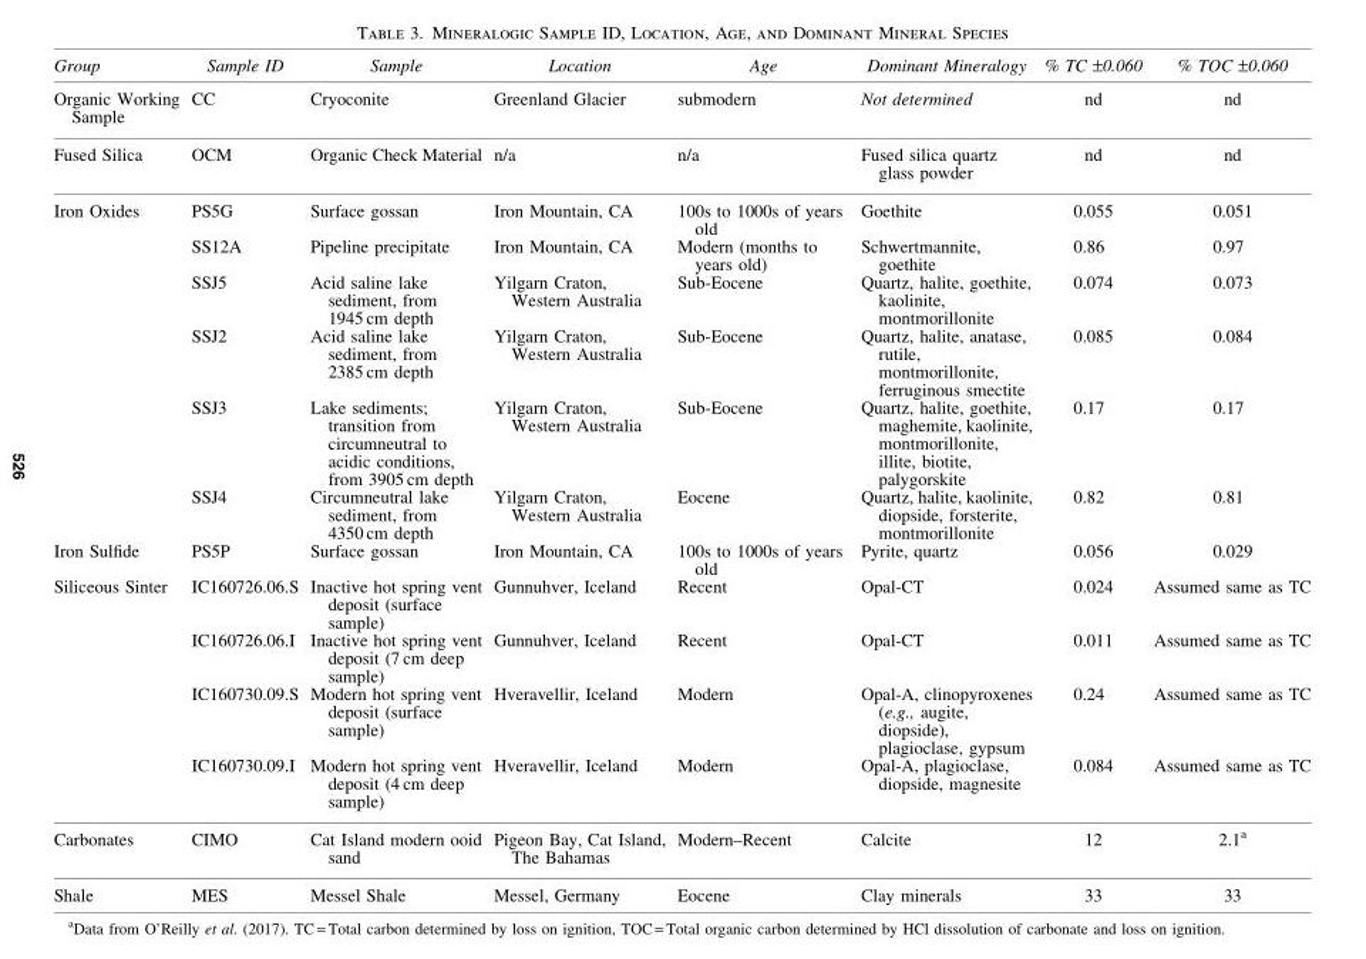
<table><thead><tr><td>Group</td><td>Sample ID</td><td>Sample</td><td>Location</td><td>Age</td><td>Dominant Mineralogy</td><td>% TC –0.060</td><td>% TOC –0.060</td></tr></thead><tbody><tr><td>Organic Working Sample</td><td>CC</td><td>Cryoconite</td><td>Greenland Glacier</td><td>submodern</td><td>Not determined</td><td>nd</td><td>nd</td></tr><tr><td>Fused Silica</td><td>OCM</td><td>Organic Check Material</td><td>n/a</td><td>n/a</td><td>Fused silica quartz glass powder</td><td>nd</td><td>nd</td></tr><tr><td rowspan="6">Iron Oxides</td><td>PS5G</td><td>Surface gossan</td><td>Iron Mountain, CA</td><td>100s to 1000s of years old</td><td>Goethite</td><td>0.055</td><td>0.051</td></tr><tr><td>SS12A</td><td>Pipeline precipitate</td><td>Iron Mountain, CA</td><td>Modern (months to years old)</td><td>Schwertmannite, goethite</td><td>0.86</td><td>0.97</td></tr><tr><td>SSJ5</td><td>Acid saline lake sediment, from 1945 cm depth</td><td>Yilgarn Craton, Western Australia</td><td>Sub-Eocene</td><td>Quartz, halite, goethite, kaolinite, montmorillonite</td><td>0.074</td><td>0.073</td></tr><tr><td>SSJ2</td><td>Acid saline lake sediment, from 2385 cm depth</td><td>Yilgarn Craton, Western Australia</td><td>Sub-Eocene</td><td>Quartz, halite, anatase, rutile, montmorillonite, ferruginous smectite</td><td>0.085</td><td>0.084</td></tr><tr><td>SSJ3</td><td>Lake sediments; transition from circumneutral to acidic conditions, from 3905 cm depth</td><td>Yilgarn Craton, Western Australia</td><td>Sub-Eocene</td><td>Quartz, halite, goethite, maghemite, kaolinite, montmorillonite, illite, biotite, palygorskite</td><td>0.17</td><td>0.17</td></tr><tr><td>SSJ4</td><td>Circumneutral lake sediment, from 4350 cm depth</td><td>Yilgarn Craton, Western Australia</td><td>Eocene</td><td>Quartz, halite, kaolinite, diopside, forsterite, montmorillonite</td><td>0.82</td><td>0.81</td></tr><tr><td>Iron Sulfide</td><td>PS5P</td><td>Surface gossan</td><td>Iron Mountain, CA</td><td>100s to 1000s of years old</td><td>Pyrite, quartz</td><td>0.056</td><td>0.029</td></tr><tr><td rowspan="4">Siliceous Sinter</td><td>IC160726.06.S</td><td>Inactive hot spring vent deposit (surface sample)</td><td>Gunnuhver, Iceland</td><td>Recent</td><td>Opal-CT</td><td>0.024</td><td>Assumed same as TC</td></tr><tr><td>IC160726.06.I</td><td>Inactive hot spring vent deposit (7 cm deep sample)</td><td>Gunnuhver, Iceland</td><td>Recent</td><td>Opal-CT</td><td>0.011</td><td>Assumed same as TC</td></tr><tr><td>IC160730.09.S</td><td>Modern hot spring vent deposit (surface sample)</td><td>Hveravellir, Iceland</td><td>Modern</td><td>Opal-A, clinopyroxenes (e.g., augite, diopside), plagioclase, gypsum</td><td>0.24</td><td>Assumed same as TC</td></tr><tr><td>IC160730.09.I</td><td>Modern hot spring vent deposit (4 cm deep sample)</td><td>Hveravellir, Iceland</td><td>Modern</td><td>Opal-A, plagioclase, diopside, magnesite</td><td>0.084</td><td>Assumed same as TC</td></tr><tr><td>Carbonates</td><td>CIMO</td><td>Cat Island modern ooid sand</td><td>Pigeon Bay, Cat Island, The Bahamas</td><td>Modern–Recent</td><td>Calcite</td><td>12</td><td>2.1<sup>a</sup></td></tr><tr><td>Shale</td><td>MES</td><td>Messel Shale</td><td>Messel, Germany</td><td>Eocene</td><td>Clay minerals</td><td>33</td><td>33</td></tr></tbody></table>